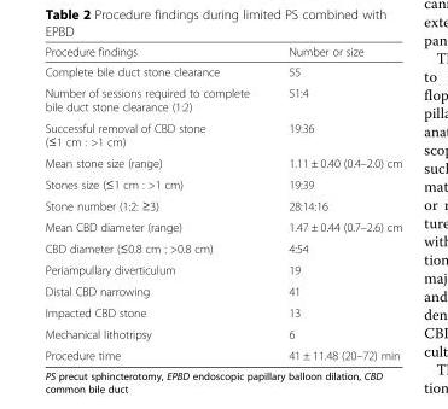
<table><thead><tr><td>Procedure findings</td><td>Number or size</td></tr></thead><tbody><tr><td>Complete bile duct stone clearance</td><td>55</td></tr><tr><td>Number of sessions required to complete bile duct stone clearance (1:2)</td><td>51:4</td></tr><tr><td>Successful removal of CBD stone (≤1 cm : &gt;1 cm)</td><td>19:36</td></tr><tr><td>Mean stone size (range)</td><td>1.11 ± 0.40 (0.4–2.0) cm</td></tr><tr><td>Stones size (≤1 cm : &gt;1 cm)</td><td>19:39</td></tr><tr><td>Stone number (1:2: ≥3)</td><td>28:14:16</td></tr><tr><td>Mean CBD diameter (range)</td><td>1.47 ± 0.44 (0.7–2.6) cm</td></tr><tr><td>CBD diameter (≤0.8 cm : &gt;0.8 cm)</td><td>4:54</td></tr><tr><td>Periampullary diverticulum</td><td>19</td></tr><tr><td>Distal CBD narrowing</td><td>41</td></tr><tr><td>Impacted CBD stone</td><td>13</td></tr><tr><td>Mechanical lithotripsy</td><td>6</td></tr><tr><td>Procedure time</td><td>41 ± 11.48 (20–72) min</td></tr></tbody></table>